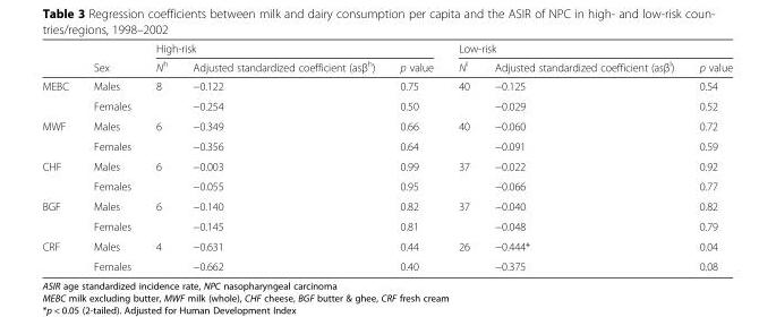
<table><thead><tr><td rowspan="2"></td><td rowspan="2">Sex</td><td colspan="3">High-risk</td><td colspan="3">Low-risk</td></tr><tr><td>N<sup>h</sup></td><td>Adjusted standardized coefficient (asβ<sup>h</sup>)</td><td>p value</td><td>N<sup>l</sup></td><td>Adjusted standardized coefficient (asβ<sup>l</sup>)</td><td>p value</td></tr></thead><tbody><tr><td rowspan="2">MEBC</td><td>Males</td><td rowspan="2">8</td><td>−0.122</td><td>0.75</td><td rowspan="2">40</td><td>−0.125</td><td>0.54</td></tr><tr><td>Females</td><td>−0.254</td><td>0.50</td><td>−0.029</td><td>0.52</td></tr><tr><td rowspan="2">MWF</td><td>Males</td><td rowspan="2">6</td><td>−0.349</td><td>0.66</td><td rowspan="2">40</td><td>−0.060</td><td>0.72</td></tr><tr><td>Females</td><td>−0.356</td><td>0.64</td><td>−0.091</td><td>0.59</td></tr><tr><td rowspan="2">CHF</td><td>Males</td><td rowspan="2">6</td><td>−0.003</td><td>0.99</td><td rowspan="2">37</td><td>−0.022</td><td>0.92</td></tr><tr><td>Females</td><td>−0.055</td><td>0.95</td><td>−0.066</td><td>0.77</td></tr><tr><td rowspan="2">BGF</td><td>Males</td><td rowspan="2">6</td><td>−0.140</td><td>0.82</td><td rowspan="2">37</td><td>−0.040</td><td>0.82</td></tr><tr><td>Females</td><td>−0.145</td><td>0.81</td><td>−0.048</td><td>0.79</td></tr><tr><td rowspan="2">CRF</td><td>Males</td><td rowspan="2">4</td><td>−0.631</td><td>0.44</td><td rowspan="2">26</td><td>−0.444*</td><td>0.04</td></tr><tr><td>Females</td><td>−0.662</td><td>0.40</td><td>−0.375</td><td>0.08</td></tr></tbody></table>